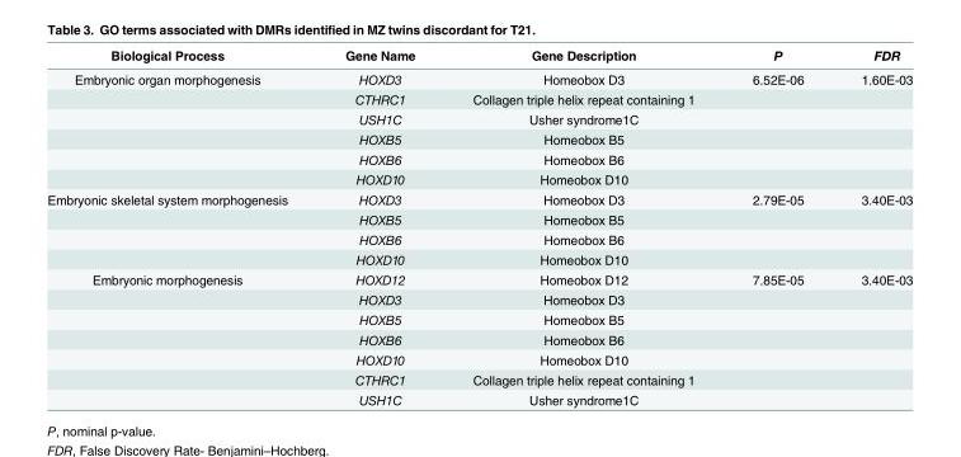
<table><thead><tr><td>Biological Process</td><td>Gene Name</td><td>Gene Description</td><td>P</td><td>FDR</td></tr></thead><tbody><tr><td rowspan="6">Embryonic organ morphogenesis</td><td>HOXD3</td><td>Homeobox D3</td><td>6.52E-06</td><td>1.60E-03</td></tr><tr><td>CTHRC1</td><td>Collagen triple helix repeat containing 1</td><td></td><td></td></tr><tr><td>USH1C</td><td>Usher syndrome1C</td><td></td><td></td></tr><tr><td>HOXB5</td><td>Homeobox B5</td><td></td><td></td></tr><tr><td>HOXB6</td><td>Homeobox B6</td><td></td><td></td></tr><tr><td>HOXD10</td><td>Homeobox D10</td><td></td><td></td></tr><tr><td rowspan="4">Embryonic skeletal system morphogenesis</td><td>HOXD3</td><td>Homeobox D3</td><td>2.79E-05</td><td>3.40E-03</td></tr><tr><td>HOXB5</td><td>Homeobox B5</td><td></td><td></td></tr><tr><td>HOXB6</td><td>Homeobox B6</td><td></td><td></td></tr><tr><td>HOXD10</td><td>Homeobox D10</td><td></td><td></td></tr><tr><td rowspan="7">Embryonic morphogenesis</td><td>HOXD12</td><td>Homeobox D12</td><td>7.85E-05</td><td>3.40E-03</td></tr><tr><td>HOXD3</td><td>Homeobox D3</td><td></td><td></td></tr><tr><td>HOXB5</td><td>Homeobox B5</td><td></td><td></td></tr><tr><td>HOXB6</td><td>Homeobox B6</td><td></td><td></td></tr><tr><td>HOXD10</td><td>Homeobox D10</td><td></td><td></td></tr><tr><td>CTHRC1</td><td>Collagen triple helix repeat containing 1</td><td></td><td></td></tr><tr><td>USH1C</td><td>Usher syndrome1C</td><td></td><td></td></tr></tbody></table>